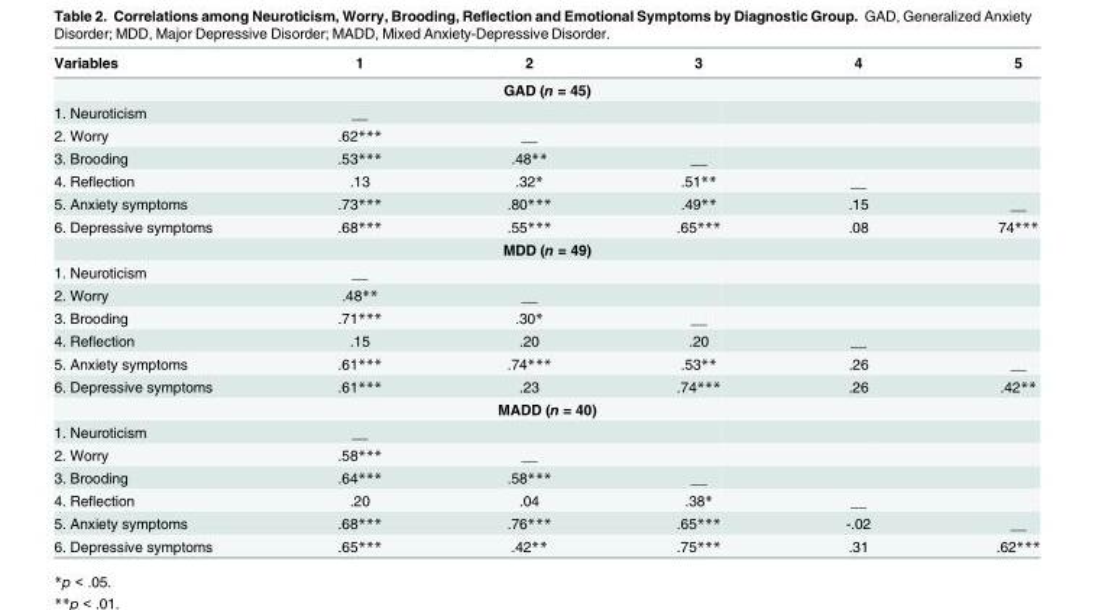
<table><thead><tr><td>Variables</td><td>1</td><td>2</td><td>3</td><td>4</td><td>5</td></tr></thead><tbody><tr><td colspan="6">GAD (n = 45)</td></tr><tr><td>1. Neuroticism</td><td>__</td><td></td><td></td><td></td><td></td></tr><tr><td>2. Worry</td><td>.62***</td><td>__</td><td></td><td></td><td></td></tr><tr><td>3. Brooding</td><td>.53***</td><td>.48**</td><td>__</td><td></td><td></td></tr><tr><td>4. Reflection</td><td>.13</td><td>.32*</td><td>.51**</td><td>__</td><td></td></tr><tr><td>5. Anxiety symptoms</td><td>.73***</td><td>.80***</td><td>.49**</td><td>.15</td><td>__</td></tr><tr><td>6. Depressive symptoms</td><td>.68***</td><td>.55***</td><td>.65***</td><td>.08</td><td>74***</td></tr><tr><td colspan="6">MDD (n = 49)</td></tr><tr><td>1. Neuroticism</td><td>__</td><td></td><td></td><td></td><td></td></tr><tr><td>2. Worry</td><td>.48**</td><td>__</td><td></td><td></td><td></td></tr><tr><td>3. Brooding</td><td>.71***</td><td>.30*</td><td>__</td><td></td><td></td></tr><tr><td>4. Reflection</td><td>.15</td><td>.20</td><td>.20</td><td>__</td><td></td></tr><tr><td>5. Anxiety symptoms</td><td>.61***</td><td>.74***</td><td>.53**</td><td>.26</td><td>__</td></tr><tr><td>6. Depressive symptoms</td><td>.61***</td><td>.23</td><td>.74***</td><td>.26</td><td>.42**</td></tr><tr><td colspan="6">MADD (n = 40)</td></tr><tr><td>1. Neuroticism</td><td>__</td><td></td><td></td><td></td><td></td></tr><tr><td>2. Worry</td><td>.58***</td><td>__</td><td></td><td></td><td></td></tr><tr><td>3. Brooding</td><td>.64***</td><td>.58***</td><td>__</td><td></td><td></td></tr><tr><td>4. Reflection</td><td>.20</td><td>.04</td><td>.38*</td><td>__</td><td></td></tr><tr><td>5. Anxiety symptoms</td><td>.68***</td><td>.76***</td><td>.65***</td><td>-.02</td><td>__</td></tr><tr><td>6. Depressive symptoms</td><td>.65***</td><td>.42**</td><td>.75***</td><td>.31</td><td>.62***</td></tr></tbody></table>